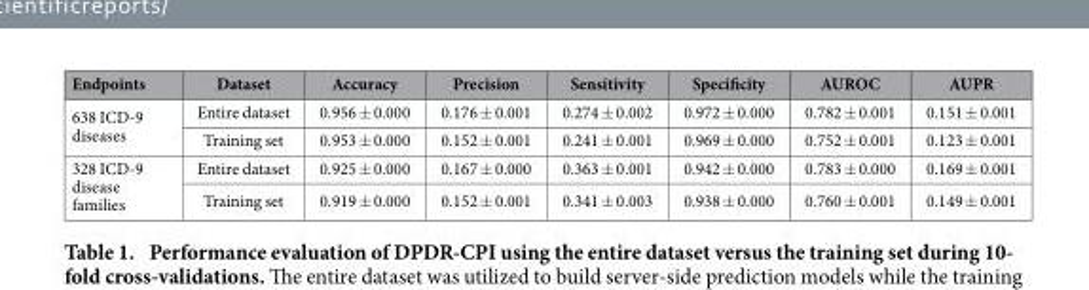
<table><thead><tr><td>Endpoints</td><td>Dataset</td><td>Accuracy</td><td>Precision</td><td>Sensitivity</td><td>Specificity</td><td>AUROC</td><td>AUPR</td></tr></thead><tbody><tr><td rowspan="2">638 ICD-9 diseases</td><td>Entire dataset</td><td>0.956 ± 0.000</td><td>0.176 ± 0.001</td><td>0.274 ± 0.002</td><td>0.972 ± 0.000</td><td>0.782 ± 0.001</td><td>0.151 ± 0.001</td></tr><tr><td>Training set</td><td>0.953 ± 0.000</td><td>0.152 ± 0.001</td><td>0.241 ± 0.001</td><td>0.969 ± 0.000</td><td>0.752 ± 0.001</td><td>0.123 ± 0.001</td></tr><tr><td rowspan="2">328 ICD-9 disease families</td><td>Entire dataset</td><td>0.925 ± 0.000</td><td>0.167 ± 0.000</td><td>0.363 ± 0.001</td><td>0.942 ± 0.000</td><td>0.783 ± 0.000</td><td>0.169 ± 0.001</td></tr><tr><td>Training set</td><td>0.919 ± 0.000</td><td>0.152 ± 0.001</td><td>0.341 ± 0.003</td><td>0.938 ± 0.000</td><td>0.760 ± 0.001</td><td>0.149 ± 0.001</td></tr></tbody></table>